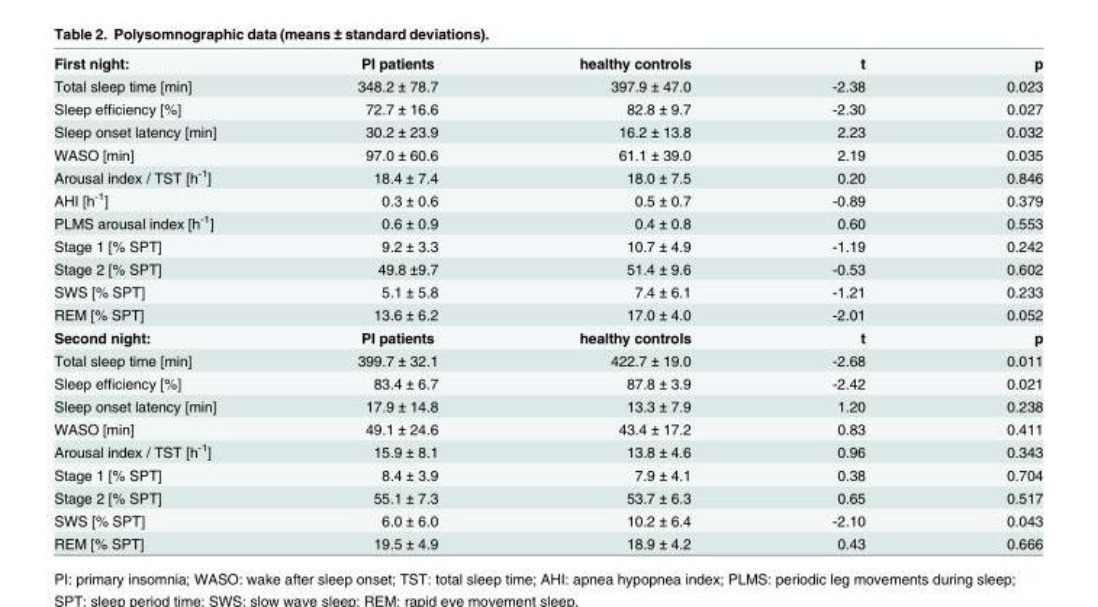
<table><tbody><tr><td>First night:</td><td>PI patients</td><td>healthy controls</td><td>t</td><td>p</td></tr><tr><td>Total sleep time [min]</td><td>348.2 ± 78.7</td><td>397.9 ± 47.0</td><td>-2.38</td><td>0.023</td></tr><tr><td>Sleep efficiency [%]</td><td>72.7 ± 16.6</td><td>82.8 ± 9.7</td><td>-2.30</td><td>0.027</td></tr><tr><td>Sleep onset latency [min]</td><td>30.2 ± 23.9</td><td>16.2 ± 13.8</td><td>2.23</td><td>0.032</td></tr><tr><td>WASO [min]</td><td>97.0 ± 60.6</td><td>61.1 ± 39.0</td><td>2.19</td><td>0.035</td></tr><tr><td>Arousal index / TST [h<sup>-1</sup>]</td><td>18.4 ± 7.4</td><td>18.0 ± 7.5</td><td>0.20</td><td>0.846</td></tr><tr><td>AHI [h<sup>-1</sup>]</td><td>0.3 ± 0.6</td><td>0.5 ± 0.7</td><td>-0.89</td><td>0.379</td></tr><tr><td>PLMS arousal index [h<sup>-1</sup>]</td><td>0.6 ± 0.9</td><td>0.4 ± 0.8</td><td>0.60</td><td>0.553</td></tr><tr><td>Stage 1 [% SPT]</td><td>9.2 ± 3.3</td><td>10.7 ± 4.9</td><td>-1.19</td><td>0.242</td></tr><tr><td>Stage 2 [% SPT]</td><td>49.8 ±9.7</td><td>51.4 ± 9.6</td><td>-0.53</td><td>0.602</td></tr><tr><td>SWS [% SPT]</td><td>5.1 ± 5.8</td><td>7.4 ± 6.1</td><td>-1.21</td><td>0.233</td></tr><tr><td>REM [% SPT]</td><td>13.6 ± 6.2</td><td>17.0 ± 4.0</td><td>-2.01</td><td>0.052</td></tr><tr><td>Second night:</td><td>PI patients</td><td>healthy controls</td><td>t</td><td>p</td></tr><tr><td>Total sleep time [min]</td><td>399.7 ± 32.1</td><td>422.7 ± 19.0</td><td>-2.68</td><td>0.011</td></tr><tr><td>Sleep efficiency [%]</td><td>83.4 ± 6.7</td><td>87.8 ± 3.9</td><td>-2.42</td><td>0.021</td></tr><tr><td>Sleep onset latency [min]</td><td>17.9 ± 14.8</td><td>13.3 ± 7.9</td><td>1.20</td><td>0.238</td></tr><tr><td>WASO [min]</td><td>49.1 ± 24.6</td><td>43.4 ± 17.2</td><td>0.83</td><td>0.411</td></tr><tr><td>Arousal index / TST [h<sup>-1</sup>]</td><td>15.9 ± 8.1</td><td>13.8 ± 4.6</td><td>0.96</td><td>0.343</td></tr><tr><td>Stage 1 [% SPT]</td><td>8.4 ± 3.9</td><td>7.9 ± 4.1</td><td>0.38</td><td>0.704</td></tr><tr><td>Stage 2 [% SPT]</td><td>55.1 ± 7.3</td><td>53.7 ± 6.3</td><td>0.65</td><td>0.517</td></tr><tr><td>SWS [% SPT]</td><td>6.0 ± 6.0</td><td>10.2 ± 6.4</td><td>-2.10</td><td>0.043</td></tr><tr><td>REM [% SPT]</td><td>19.5 ± 4.9</td><td>18.9 ± 4.2</td><td>0.43</td><td>0.666</td></tr></tbody></table>